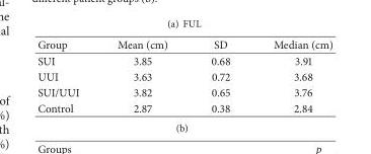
<table><thead><tr><td>Group</td><td>Mean (cm)</td><td>SD</td><td>Median (cm)</td></tr></thead><tbody><tr><td>SUI</td><td>3.85</td><td>0.68</td><td>3.91</td></tr><tr><td>UUI</td><td>3.63</td><td>0.72</td><td>3.68</td></tr><tr><td>SUI/UUI</td><td>3.82</td><td>0.65</td><td>3.76</td></tr><tr><td>Control</td><td>2.87</td><td>0.38</td><td>2.84</td></tr></tbody></table>